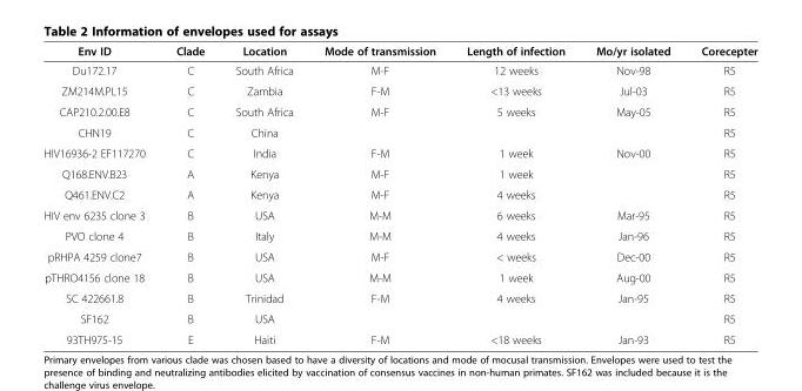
<table><thead><tr><td>Env ID</td><td>Clade</td><td>Location</td><td>Mode of transmission</td><td>Length of infection</td><td>Mo/yr isolated</td><td>Corecepter</td></tr></thead><tbody><tr><td>Du172.17</td><td>C</td><td>South Africa</td><td>M-F</td><td>12 weeks</td><td>Nov-98</td><td>R5</td></tr><tr><td>ZM214M.PL15</td><td>C</td><td>Zambia</td><td>F-M</td><td>&lt;13 weeks</td><td>Jul-03</td><td>R5</td></tr><tr><td>CAP210.2.00.E8</td><td>C</td><td>South Africa</td><td>M-F</td><td>5 weeks</td><td>May-05</td><td>R5</td></tr><tr><td>CHN19</td><td>C</td><td>China</td><td></td><td></td><td></td><td>R5</td></tr><tr><td>HIV16936-2 EF117270</td><td>C</td><td>India</td><td>F-M</td><td>1 week</td><td>Nov-00</td><td>R5</td></tr><tr><td>Q168.ENV.B23</td><td>A</td><td>Kenya</td><td>M-F</td><td>1 week</td><td></td><td>R5</td></tr><tr><td>Q461.ENV.C2</td><td>A</td><td>Kenya</td><td>M-F</td><td>4 weeks</td><td></td><td>R5</td></tr><tr><td>HIV env 6235 clone 3</td><td>B</td><td>USA</td><td>M-M</td><td>6 weeks</td><td>Mar-95</td><td>R5</td></tr><tr><td>PVO clone 4</td><td>B</td><td>Italy</td><td>M-M</td><td>4 weeks</td><td>Jan-96</td><td>R5</td></tr><tr><td>pRHPA 4259 clone7</td><td>B</td><td>USA</td><td>M-F</td><td>&lt; weeks</td><td>Dec-00</td><td>R5</td></tr><tr><td>pTHRO4156 clone 18</td><td>B</td><td>USA</td><td>M-M</td><td>1 week</td><td>Aug-00</td><td>R5</td></tr><tr><td>SC 422661.8</td><td>B</td><td>Trinidad</td><td>F-M</td><td>4 weeks</td><td>Jan-95</td><td>R5</td></tr><tr><td>SF162</td><td>B</td><td>USA</td><td></td><td></td><td></td><td>R5</td></tr><tr><td>93TH975-15</td><td>E</td><td>Haiti</td><td>F-M</td><td>&lt;18 weeks</td><td>Jan-93</td><td>R5</td></tr></tbody></table>